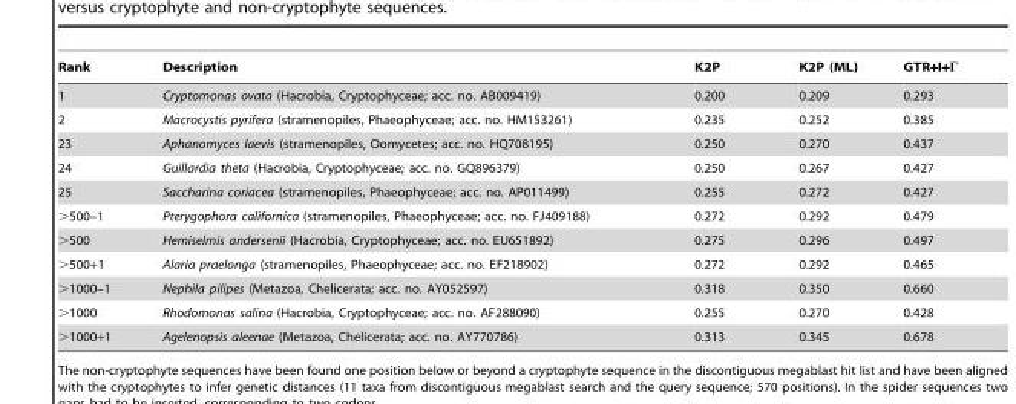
<table><thead><tr><td>Rank</td><td>Description</td><td>K2P</td><td>K2P (ML)</td><td>GTR+I+Γ</td></tr></thead><tbody><tr><td>1</td><td>Cryptomonas ovata (Hacrobia, Cryptophyceae; acc. no. AB009419)</td><td>0.200</td><td>0.209</td><td>0.293</td></tr><tr><td>2</td><td>Macrocystis pyrifera (stramenopiles, Phaeophyceae; acc. no. HM153261)</td><td>0.235</td><td>0.252</td><td>0.385</td></tr><tr><td>23</td><td>Aphanomyces laevis (stramenopiles, Oomycetes; acc. no. HQ708195)</td><td>0.250</td><td>0.270</td><td>0.437</td></tr><tr><td>24</td><td>Guillardia theta (Hacrobia, Cryptophyceae; acc. no. GQ896379)</td><td>0.250</td><td>0.267</td><td>0.427</td></tr><tr><td>25</td><td>Saccharina coriacea (stramenopiles, Phaeophyceae; acc. no. AP011499)</td><td>0.255</td><td>0.272</td><td>0.427</td></tr><tr><td>&gt;500–1</td><td>Pterygophora californica (stramenopiles, Phaeophyceae; acc. no. FJ409188)</td><td>0.272</td><td>0.292</td><td>0.479</td></tr><tr><td>&gt;500</td><td>Hemiselmis andersenii (Hacrobia, Cryptophyceae; acc. no. EU651892)</td><td>0.275</td><td>0.296</td><td>0.497</td></tr><tr><td>&gt;500+1</td><td>Alaria praelonga (stramenopiles, Phaeophyceae; acc. no. EF218902)</td><td>0.272</td><td>0.292</td><td>0.465</td></tr><tr><td>&gt;1000–1</td><td>Nephila pilipes (Metazoa, Chelicerata; acc. no. AY052597)</td><td>0.318</td><td>0.350</td><td>0.660</td></tr><tr><td>&gt;1000</td><td>Rhodomonas salina (Hacrobia, Cryptophyceae; acc. no. AF288090)</td><td>0.255</td><td>0.270</td><td>0.428</td></tr><tr><td>&gt;1000+1</td><td>Agelenopsis aleenae (Metazoa, Chelicerata; acc. no. AY770786)</td><td>0.313</td><td>0.345</td><td>0.678</td></tr></tbody></table>